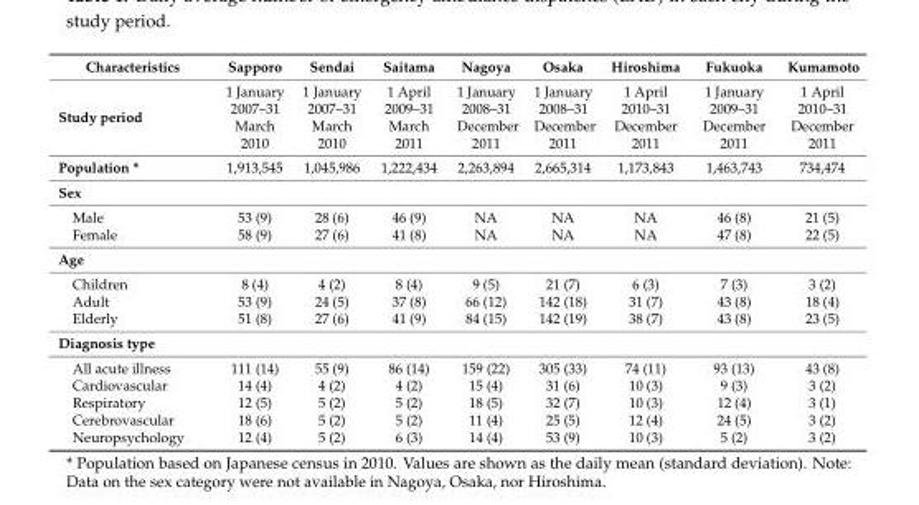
<table><thead><tr><td>Characteristics</td><td>Sapporo</td><td>Sendai</td><td>Saitama</td><td>Nagoya</td><td>Osaka</td><td>Hiroshima</td><td>Fukuoka</td><td>Kumamoto</td></tr></thead><tbody><tr><td>Study period</td><td>1 January 2007–31 March 2010</td><td>1 January 2007–31 March 2010</td><td>1 April 2009–31 March 2011</td><td>1 January 2008–31 December 2011</td><td>1 January 2008–31 December 2011</td><td>1 April 2010–31 December 2011</td><td>1 January 2009–31 December 2011</td><td>1 April 2010–31 December 2011</td></tr><tr><td>Population *</td><td>1,913,545</td><td>1,045,986</td><td>1,222,434</td><td>2,263,894</td><td>2,665,314</td><td>1,173,843</td><td>1,463,743</td><td>734,474</td></tr><tr><td colspan="9">Sex</td></tr><tr><td>Male</td><td>53 (9)</td><td>28 (6)</td><td>46 (9)</td><td>NA</td><td>NA</td><td>NA</td><td>46 (8)</td><td>21 (5)</td></tr><tr><td>Female</td><td>58 (9)</td><td>27 (6)</td><td>41 (8)</td><td>NA</td><td>NA</td><td>NA</td><td>47 (8)</td><td>22 (5)</td></tr><tr><td colspan="9">Age</td></tr><tr><td>Children</td><td>8 (4)</td><td>4 (2)</td><td>8 (4)</td><td>9 (5)</td><td>21 (7)</td><td>6 (3)</td><td>7 (3)</td><td>3 (2)</td></tr><tr><td>Adult</td><td>53 (9)</td><td>24 (5)</td><td>37 (8)</td><td>66 (12)</td><td>142 (18)</td><td>31 (7)</td><td>43 (8)</td><td>18 (4)</td></tr><tr><td>Elderly</td><td>51 (8)</td><td>27 (6)</td><td>41 (9)</td><td>84 (15)</td><td>142 (19)</td><td>38 (7)</td><td>43 (8)</td><td>23 (5)</td></tr><tr><td colspan="9">Diagnosis type</td></tr><tr><td>All acute illness</td><td>111 (14)</td><td>55 (9)</td><td>86 (14)</td><td>159 (22)</td><td>305 (33)</td><td>74 (11)</td><td>93 (13)</td><td>43 (8)</td></tr><tr><td>Cardiovascular</td><td>14 (4)</td><td>4 (2)</td><td>4 (2)</td><td>15 (4)</td><td>31 (6)</td><td>10 (3)</td><td>9 (3)</td><td>3 (2)</td></tr><tr><td>Respiratory</td><td>12 (5)</td><td>5 (2)</td><td>5 (2)</td><td>18 (5)</td><td>32 (7)</td><td>10 (3)</td><td>12 (4)</td><td>3 (1)</td></tr><tr><td>Cerebrovascular</td><td>18 (6)</td><td>5 (2)</td><td>5 (2)</td><td>11 (4)</td><td>25 (5)</td><td>12 (4)</td><td>24 (5)</td><td>3 (2)</td></tr><tr><td>Neuropsychology</td><td>12 (4)</td><td>5 (2)</td><td>6 (3)</td><td>14 (4)</td><td>53 (9)</td><td>10 (3)</td><td>5 (2)</td><td>3 (2)</td></tr></tbody></table>